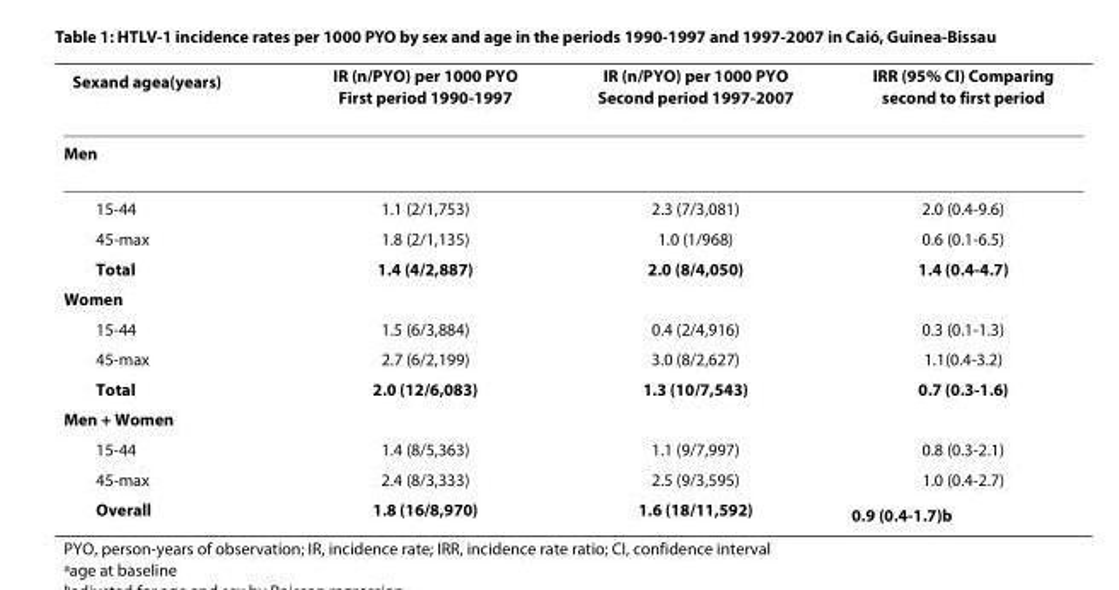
<table><thead><tr><td>Sexand age<sup>a</sup>(years)</td><td>IR (n/PYO) per 1000 PYO First period 1990-1997</td><td>IR (n/PYO) per 1000 PYO Second period 1997-2007</td><td>IRR (95% CI) Comparing second to first period</td></tr></thead><tbody><tr><td colspan="4">Men</td></tr><tr><td>15-44</td><td>1.1 (2/1,753)</td><td>2.3 (7/3,081)</td><td>2.0 (0.4-9.6)</td></tr><tr><td>45-max</td><td>1.8 (2/1,135)</td><td>1.0 (1/968)</td><td>0.6 (0.1-6.5)</td></tr><tr><td>Total</td><td>1.4 (4/2,887)</td><td>2.0 (8/4,050)</td><td>1.4 (0.4-4.7)</td></tr><tr><td colspan="4">Women</td></tr><tr><td>15-44</td><td>1.5 (6/3,884)</td><td>0.4 (2/4,916)</td><td>0.3 (0.1-1.3)</td></tr><tr><td>45-max</td><td>2.7 (6/2,199)</td><td>3.0 (8/2,627)</td><td>1.1(0.4-3.2)</td></tr><tr><td>Total</td><td>2.0 (12/6,083)</td><td>1.3 (10/7,543)</td><td>0.7 (0.3-1.6)</td></tr><tr><td colspan="4">Men + Women</td></tr><tr><td>15-44</td><td>1.4 (8/5,363)</td><td>1.1 (9/7,997)</td><td>0.8 (0.3-2.1)</td></tr><tr><td>45-max</td><td>2.4 (8/3,333)</td><td>2.5 (9/3,595)</td><td>1.0 (0.4-2.7)</td></tr><tr><td>Overall</td><td>1.8 (16/8,970)</td><td>1.6 (18/11,592)</td><td>0.9 (0.4-1.7)<sup>b</sup></td></tr></tbody></table>